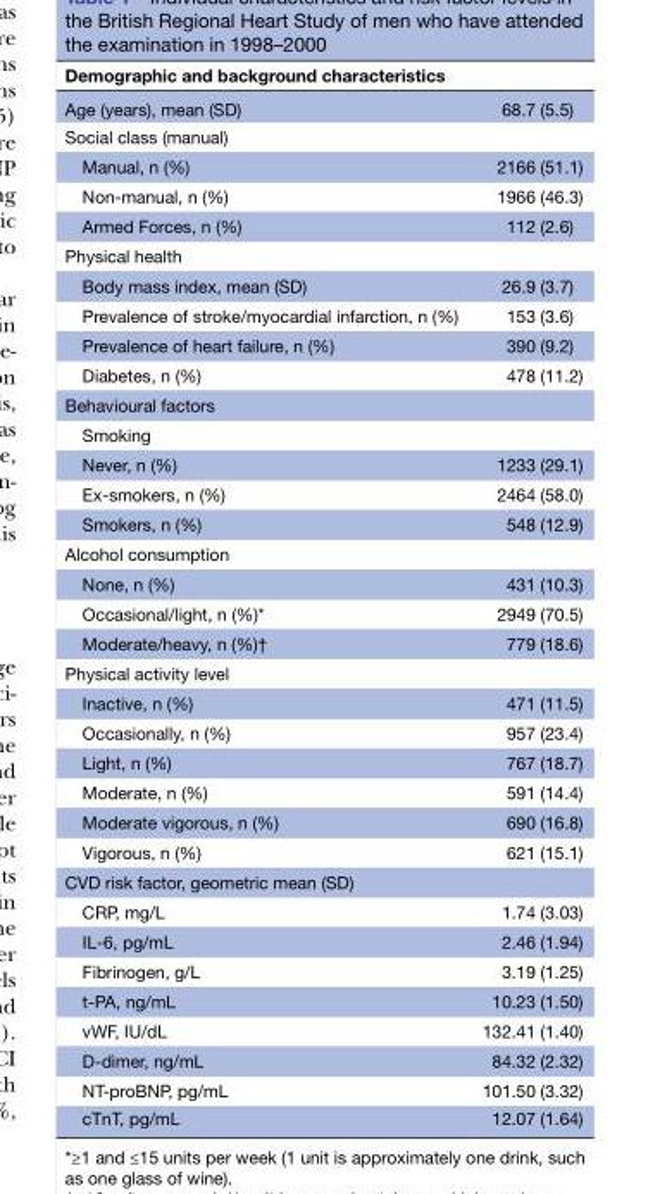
<table><thead><tr><td>Demographic and background characteristics</td><td></td></tr></thead><tbody><tr><td>Age (years), mean (SD)</td><td>68.7 (5.5)</td></tr><tr><td colspan="2">Social class (manual)</td></tr><tr><td>Manual, n (%)</td><td>2166 (51.1)</td></tr><tr><td>Non-manual, n (%)</td><td>1966 (46.3)</td></tr><tr><td>Armed Forces, n (%)</td><td>112 (2.6)</td></tr><tr><td colspan="2">Physical health</td></tr><tr><td>Body mass index, mean (SD)</td><td>26.9 (3.7)</td></tr><tr><td>Prevalence of stroke/myocardial infarction, n (%)</td><td>153 (3.6)</td></tr><tr><td>Prevalence of heart failure, n (%)</td><td>390 (9.2)</td></tr><tr><td>Diabetes, n (%)</td><td>478 (11.2)</td></tr><tr><td colspan="2">Behavioural factors</td></tr><tr><td colspan="2">Smoking</td></tr><tr><td>Never, n (%)</td><td>1233 (29.1)</td></tr><tr><td>Ex-smokers, n (%)</td><td>2464 (58.0)</td></tr><tr><td>Smokers, n (%)</td><td>548 (12.9)</td></tr><tr><td colspan="2">Alcohol consumption</td></tr><tr><td>None, n (%)</td><td>431 (10.3)</td></tr><tr><td>Occasional/light, n (%)*</td><td>2949 (70.5)</td></tr><tr><td>Moderate/heavy, n (%)†</td><td>779 (18.6)</td></tr><tr><td colspan="2">Physical activity level</td></tr><tr><td>Inactive, n (%)</td><td>471 (11.5)</td></tr><tr><td>Occasionally, n (%)</td><td>957 (23.4)</td></tr><tr><td>Light, n (%)</td><td>767 (18.7)</td></tr><tr><td>Moderate, n (%)</td><td>591 (14.4)</td></tr><tr><td>Moderate vigorous, n (%)</td><td>690 (16.8)</td></tr><tr><td>Vigorous, n (%)</td><td>621 (15.1)</td></tr><tr><td colspan="2">CVD risk factor, geometric mean (SD)</td></tr><tr><td>CRP, mg/L</td><td>1.74 (3.03)</td></tr><tr><td>IL-6, pg/mL</td><td>2.46 (1.94)</td></tr><tr><td>Fibrinogen, g/L</td><td>3.19 (1.25)</td></tr><tr><td>t-PA, ng/mL</td><td>10.23 (1.50)</td></tr><tr><td>vWF, IU/dL</td><td>132.41 (1.40)</td></tr><tr><td>D-dimer, ng/mL</td><td>84.32 (2.32)</td></tr><tr><td>NT-proBNP, pg/mL</td><td>101.50 (3.32)</td></tr><tr><td>cTnT, pg/mL</td><td>12.07 (1.64)</td></tr></tbody></table>